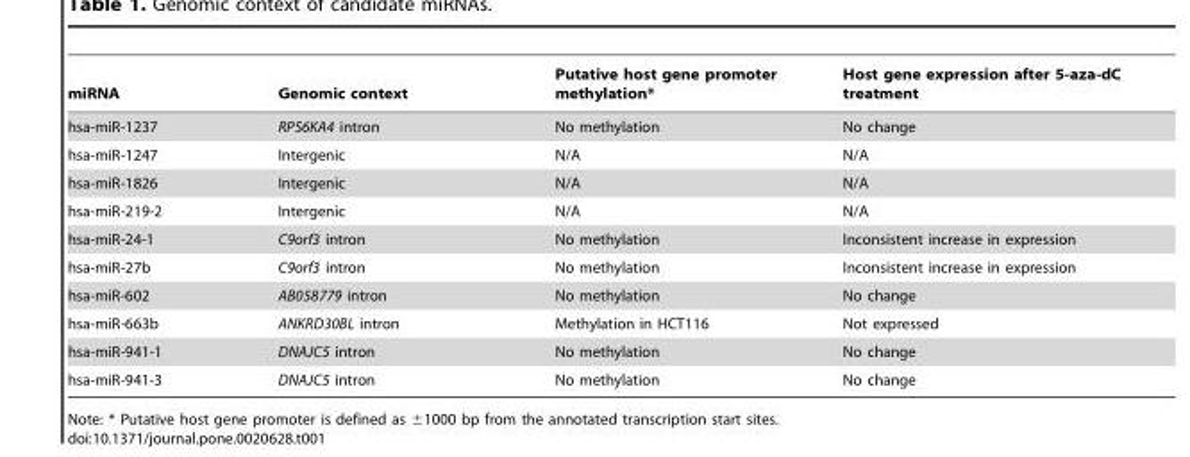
<table><thead><tr><td>miRNA</td><td>Genomic context</td><td>Putative host gene promoter methylation*</td><td>Host gene expression after 5-aza-dC treatment</td></tr></thead><tbody><tr><td>hsa-miR-1237</td><td>RPS6KA4 intron</td><td>No methylation</td><td>No change</td></tr><tr><td>hsa-miR-1247</td><td>Intergenic</td><td>N/A</td><td>N/A</td></tr><tr><td>hsa-miR-1826</td><td>Intergenic</td><td>N/A</td><td>N/A</td></tr><tr><td>hsa-miR-219-2</td><td>Intergenic</td><td>N/A</td><td>N/A</td></tr><tr><td>hsa-miR-24-1</td><td>C9orf3 intron</td><td>No methylation</td><td>Inconsistent increase in expression</td></tr><tr><td>hsa-miR-27b</td><td>C9orf3 intron</td><td>No methylation</td><td>Inconsistent increase in expression</td></tr><tr><td>hsa-miR-602</td><td>AB058779 intron</td><td>No methylation</td><td>No change</td></tr><tr><td>hsa-miR-663b</td><td>ANKRD30BL intron</td><td>Methylation in HCT116</td><td>Not expressed</td></tr><tr><td>hsa-miR-941-1</td><td>DNAJC5 intron</td><td>No methylation</td><td>No change</td></tr><tr><td>hsa-miR-941-3</td><td>DNAJC5 intron</td><td>No methylation</td><td>No change</td></tr></tbody></table>